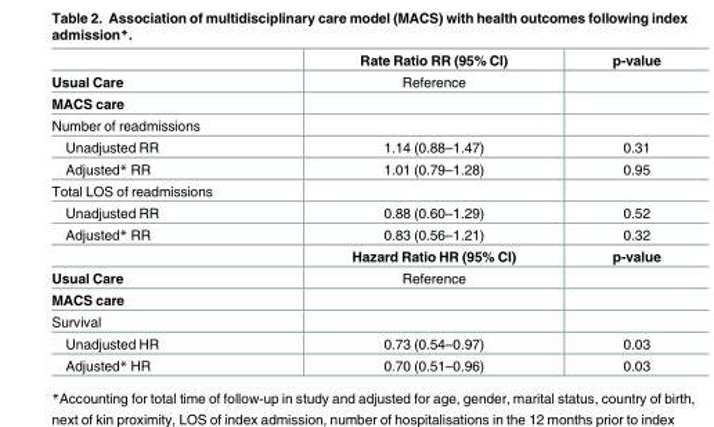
<table><thead><tr><td></td><td>Rate Ratio RR (95% CI)</td><td>p-value</td></tr></thead><tbody><tr><td>Usual Care</td><td>Reference</td><td></td></tr><tr><td colspan="3">MACS care</td></tr><tr><td colspan="3">Number of readmissions</td></tr><tr><td>Unadjusted RR</td><td>1.14 (0.88–1.47)</td><td>0.31</td></tr><tr><td>Adjusted* RR</td><td>1.01 (0.79–1.28)</td><td>0.95</td></tr><tr><td colspan="3">Total LOS of readmissions</td></tr><tr><td>Unadjusted RR</td><td>0.88 (0.60–1.29)</td><td>0.52</td></tr><tr><td rowspan="2">Adjusted* RR</td><td>0.83 (0.56–1.21)</td><td>0.32</td></tr><tr><td>Hazard Ratio HR (95% CI)</td><td>p-value</td></tr><tr><td>Usual Care</td><td>Reference</td><td></td></tr><tr><td colspan="3">MACS care</td></tr><tr><td colspan="3">Survival</td></tr><tr><td>Unadjusted HR</td><td>0.73 (0.54–0.97)</td><td>0.03</td></tr><tr><td>Adjusted* HR</td><td>0.70 (0.51–0.96)</td><td>0.03</td></tr></tbody></table>